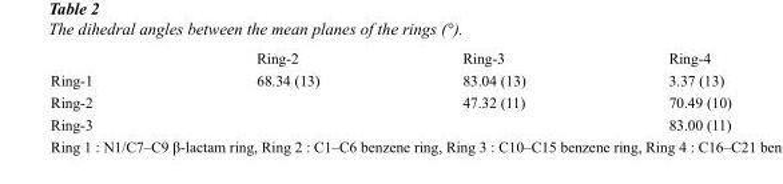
<table><thead><tr><td></td><td>Ring-2</td><td>Ring-3</td><td>Ring-4</td></tr></thead><tbody><tr><td>Ring-1</td><td>68.34 (13)</td><td>83.04 (13)</td><td>3.37 (13)</td></tr><tr><td>Ring-2</td><td></td><td>47.32 (11)</td><td>70.49 (10)</td></tr><tr><td>Ring-3</td><td></td><td></td><td>83.00 (11)</td></tr></tbody></table>